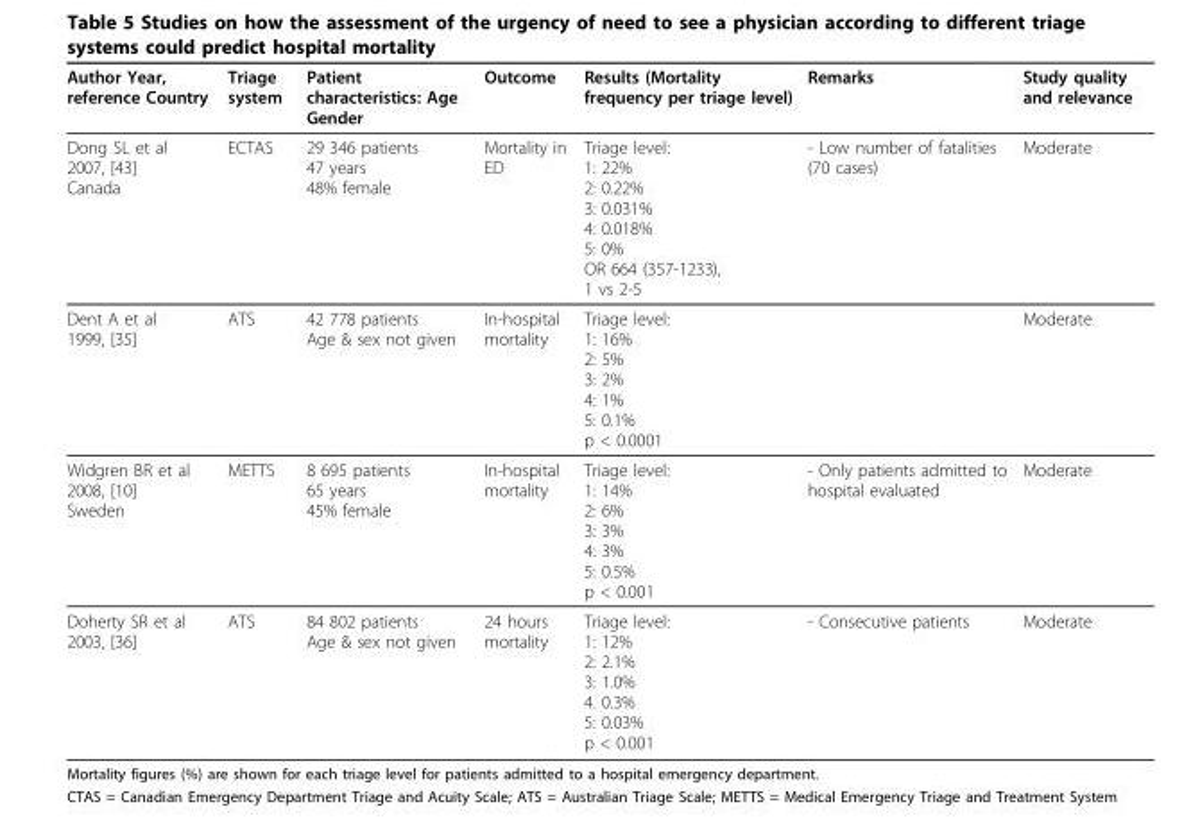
<table><thead><tr><td>Author Year, reference Country</td><td>Triage system</td><td>Patient characteristics: Age Gender</td><td>Outcome</td><td>Results (Mortality frequency per triage level)</td><td>Remarks</td><td>Study quality and relevance</td></tr></thead><tbody><tr><td>Dong SL et al 2007, [43] Canada</td><td>ECTAS</td><td>29 346 patients 47 years 48% female</td><td>Mortality in ED</td><td>Triage level: 1: 22% 2: 0.22% 3: 0.031% 4: 0.018% 5: 0% OR 664 (357-1233), 1 vs 2-5</td><td>- Low number of fatalities (70 cases)</td><td>Moderate</td></tr><tr><td>Dent A et al 1999, [35]</td><td>ATS</td><td>42 778 patients Age &amp; sex not given</td><td>In-hospital mortality</td><td>Triage level: 1: 16% 2: 5% 3: 2% 4: 1% 5: 0.1% p &lt; 0.0001</td><td></td><td>Moderate</td></tr><tr><td>Widgren BR et al 2008, [10] Sweden</td><td>METTS</td><td>8 695 patients 65 years 45% female</td><td>In-hospital mortality</td><td>Triage level: 1: 14% 2: 6% 3: 3% 4: 3% 5: 0.5% p &lt; 0.001</td><td>- Only patients admitted to hospital evaluated</td><td>Moderate</td></tr><tr><td>Doherty SR et al 2003, [36]</td><td>ATS</td><td>84 802 patients Age &amp; sex not given</td><td>24 hours mortality</td><td>Triage level: 1: 12% 2: 2.1% 3: 1.0% 4. 0.3% 5: 0.03% p &lt; 0.001</td><td>- Consecutive patients</td><td>Moderate</td></tr></tbody></table>